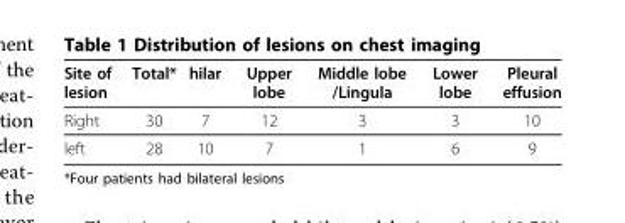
<table><thead><tr><td>Site of lesion</td><td>Total*</td><td>hilar</td><td>Upper lobe</td><td>Middle lobe /Lingula</td><td>Lower lobe</td><td>Pleural effusion</td></tr></thead><tbody><tr><td>Right</td><td>30</td><td>7</td><td>12</td><td>3</td><td>3</td><td>10</td></tr><tr><td>left</td><td>28</td><td>10</td><td>7</td><td>1</td><td>6</td><td>9</td></tr></tbody></table>